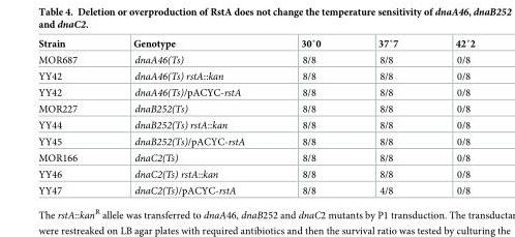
<table><thead><tr><td>Strain</td><td>Genotype</td><td>30˚0</td><td>37˚7</td><td>42˚2</td></tr></thead><tbody><tr><td>MOR687</td><td>dnaA46(Ts)</td><td>8/8</td><td>8/8</td><td>0/8</td></tr><tr><td>YY42</td><td>dnaA46(Ts) rstA::kan</td><td>8/8</td><td>8/8</td><td>0/8</td></tr><tr><td>YY42</td><td>dnaA46(Ts)/pACYC-rstA</td><td>8/8</td><td>8/8</td><td>0/8</td></tr><tr><td>MOR227</td><td>dnaB252(Ts)</td><td>8/8</td><td>8/8</td><td>0/8</td></tr><tr><td>YY44</td><td>dnaB252(Ts) rstA::kan</td><td>8/8</td><td>8/8</td><td>0/8</td></tr><tr><td>YY45</td><td>dnaB252(Ts)/pACYC-rstA</td><td>8/8</td><td>8/8</td><td>0/8</td></tr><tr><td>MOR166</td><td>dnaC2(Ts)</td><td>8/8</td><td>8/8</td><td>0/8</td></tr><tr><td>YY46</td><td>dnaC2(Ts) rstA::kan</td><td>8/8</td><td>8/8</td><td>0/8</td></tr><tr><td>YY47</td><td>dnaC2(Ts)/pACYC-rstA</td><td>8/8</td><td>4/8</td><td>0/8</td></tr></tbody></table>